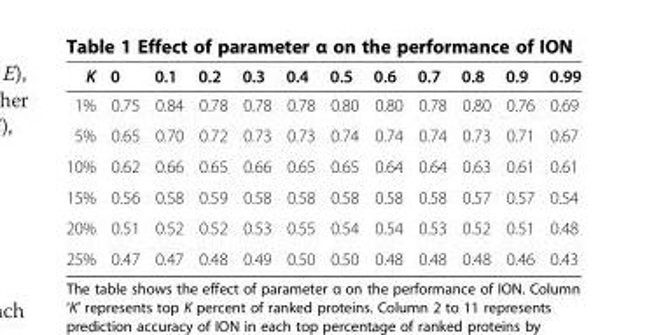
<table><thead><tr><td>K</td><td>0</td><td>0.1</td><td>0.2</td><td>0.3</td><td>0.4</td><td>0.5</td><td>0.6</td><td>0.7</td><td>0.8</td><td>0.9</td><td>0.99</td></tr></thead><tbody><tr><td>1%</td><td>0.75</td><td>0.84</td><td>0.78</td><td>0.78</td><td>0.78</td><td>0.80</td><td>0.80</td><td>0.78</td><td>0.80</td><td>0.76</td><td>0.69</td></tr><tr><td>5%</td><td>0.65</td><td>0.70</td><td>0.72</td><td>0.73</td><td>0.73</td><td>0.74</td><td>0.74</td><td>0.74</td><td>0.73</td><td>0.71</td><td>0.67</td></tr><tr><td>10%</td><td>0.62</td><td>0.66</td><td>0.65</td><td>0.66</td><td>0.65</td><td>0.65</td><td>0.64</td><td>0.64</td><td>0.63</td><td>0.61</td><td>0.61</td></tr><tr><td>15%</td><td>0.56</td><td>0.58</td><td>0.59</td><td>0.58</td><td>0.58</td><td>0.58</td><td>0.58</td><td>0.58</td><td>0.57</td><td>0.57</td><td>0.54</td></tr><tr><td>20%</td><td>0.51</td><td>0.52</td><td>0.52</td><td>0.53</td><td>0.55</td><td>0.54</td><td>0.54</td><td>0.53</td><td>0.52</td><td>0.51</td><td>0.48</td></tr><tr><td>25%</td><td>0.47</td><td>0.47</td><td>0.48</td><td>0.49</td><td>0.50</td><td>0.50</td><td>0.48</td><td>0.48</td><td>0.48</td><td>0.46</td><td>0.43</td></tr></tbody></table>